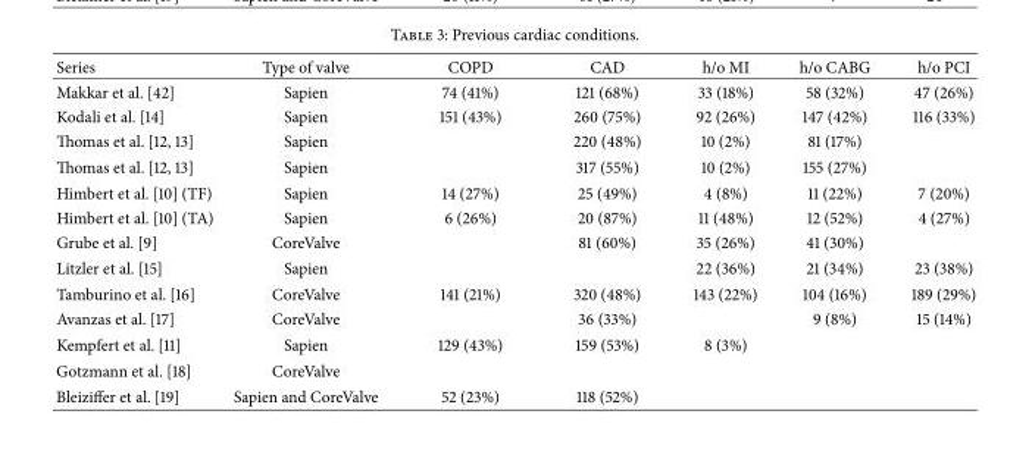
<table><thead><tr><td>Series</td><td>Type of valve</td><td>COPD</td><td>CAD</td><td>h/o MI</td><td>h/o CABG</td><td>h/o PCI</td></tr></thead><tbody><tr><td>Makkar et al. [42]</td><td>Sapien</td><td>74 (41%)</td><td>121 (68%)</td><td>33 (18%)</td><td>58 (32%)</td><td>47 (26%)</td></tr><tr><td>Kodali et al. [14]</td><td>Sapien</td><td>151 (43%)</td><td>260 (75%)</td><td>92 (26%)</td><td>147 (42%)</td><td>116 (33%)</td></tr><tr><td>Thomas et al. [12, 13]</td><td>Sapien</td><td></td><td>220 (48%)</td><td>10 (2%)</td><td>81 (17%)</td><td></td></tr><tr><td>Thomas et al. [12, 13]</td><td>Sapien</td><td></td><td>317 (55%)</td><td>10 (2%)</td><td>155 (27%)</td><td></td></tr><tr><td>Himbert et al. [10] (TF)</td><td>Sapien</td><td>14 (27%)</td><td>25 (49%)</td><td>4 (8%)</td><td>11 (22%)</td><td>7 (20%)</td></tr><tr><td>Himbert et al. [10] (TA)</td><td>Sapien</td><td>6 (26%)</td><td>20 (87%)</td><td>11 (48%)</td><td>12 (52%)</td><td>4 (27%)</td></tr><tr><td>Grube et al. [9]</td><td>CoreValve</td><td></td><td>81 (60%)</td><td>35 (26%)</td><td>41 (30%)</td><td></td></tr><tr><td>Litzler et al. [15]</td><td>Sapien</td><td></td><td></td><td>22 (36%)</td><td>21 (34%)</td><td>23 (38%)</td></tr><tr><td>Tamburino et al. [16]</td><td>CoreValve</td><td>141 (21%)</td><td>320 (48%)</td><td>143 (22%)</td><td>104 (16%)</td><td>189 (29%)</td></tr><tr><td>Avanzas et al. [17]</td><td>CoreValve</td><td></td><td>36 (33%)</td><td></td><td>9 (8%)</td><td>15 (14%)</td></tr><tr><td>Kempfert et al. [11]</td><td>Sapien</td><td>129 (43%)</td><td>159 (53%)</td><td>8 (3%)</td><td></td><td></td></tr><tr><td>Gotzmann et al. [18]</td><td>CoreValve</td><td></td><td></td><td></td><td></td><td></td></tr><tr><td>Bleiziffer et al. [19]</td><td>Sapien and CoreValve</td><td>52 (23%)</td><td>118 (52%)</td><td></td><td></td><td></td></tr></tbody></table>